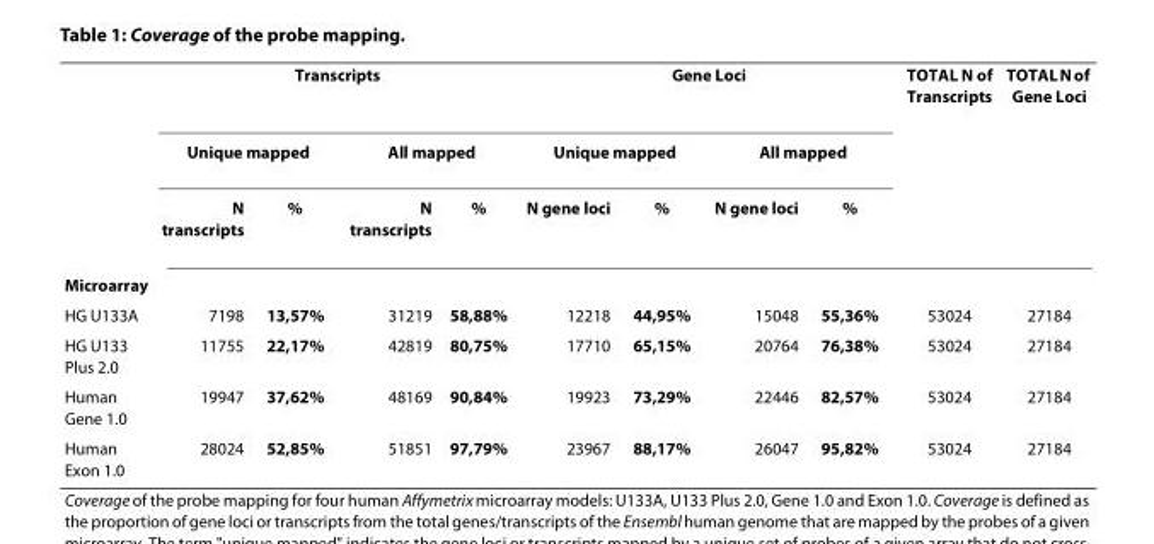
<table><thead><tr><td rowspan="3"></td><td colspan="4">Transcripts</td><td colspan="4">Gene Loci</td><td rowspan="3">TOTAL N of Transcripts</td><td rowspan="3">TOTAL N of Gene Loci</td></tr><tr><td colspan="2">Unique mapped</td><td colspan="2">All mapped</td><td colspan="2">Unique mapped</td><td colspan="2">All mapped</td></tr><tr><td>N transcripts</td><td>%</td><td>N transcripts</td><td>%</td><td>N gene loci</td><td>%</td><td>N gene loci</td><td>%</td></tr></thead><tbody><tr><td colspan="11">Microarray</td></tr><tr><td>HG U133A</td><td>7198</td><td>13,57%</td><td>31219</td><td>58,88%</td><td>12218</td><td>44,95%</td><td>15048</td><td>55,36%</td><td>53024</td><td>27184</td></tr><tr><td>HG U133 Plus 2.0</td><td>11755</td><td>22,17%</td><td>42819</td><td>80,75%</td><td>17710</td><td>65,15%</td><td>20764</td><td>76,38%</td><td>53024</td><td>27184</td></tr><tr><td>Human Gene 1.0</td><td>19947</td><td>37,62%</td><td>48169</td><td>90,84%</td><td>19923</td><td>73,29%</td><td>22446</td><td>82,57%</td><td>53024</td><td>27184</td></tr><tr><td>Human Exon 1.0</td><td>28024</td><td>52,85%</td><td>51851</td><td>97,79%</td><td>23967</td><td>88,17%</td><td>26047</td><td>95,82%</td><td>53024</td><td>27184</td></tr></tbody></table>